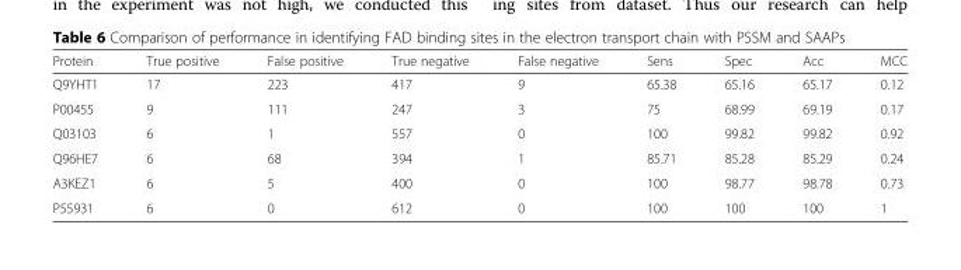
<table><thead><tr><td>Protein</td><td>True positive</td><td>False positive</td><td>True negative</td><td>False negative</td><td>Sens</td><td>Spec</td><td>Acc</td><td>MCC</td></tr></thead><tbody><tr><td>Q9YHT1</td><td>17</td><td>223</td><td>417</td><td>9</td><td>65.38</td><td>65.16</td><td>65.17</td><td>0.12</td></tr><tr><td>P00455</td><td>9</td><td>111</td><td>247</td><td>3</td><td>75</td><td>68.99</td><td>69.19</td><td>0.17</td></tr><tr><td>Q03103</td><td>6</td><td>1</td><td>557</td><td>0</td><td>100</td><td>99.82</td><td>99.82</td><td>0.92</td></tr><tr><td>Q96HE7</td><td>6</td><td>68</td><td>394</td><td>1</td><td>85.71</td><td>85.28</td><td>85.29</td><td>0.24</td></tr><tr><td>A3KEZ1</td><td>6</td><td>5</td><td>400</td><td>0</td><td>100</td><td>98.77</td><td>98.78</td><td>0.73</td></tr><tr><td>P55931</td><td>6</td><td>0</td><td>612</td><td>0</td><td>100</td><td>100</td><td>100</td><td>1</td></tr></tbody></table>